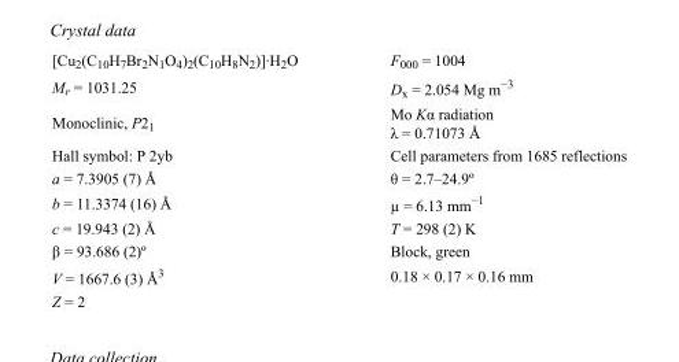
<table><tbody><tr><td>[Cu<sub>2</sub>(C<sub>10</sub>H<sub>7</sub>Br<sub>2</sub>N<sub>1</sub>O<sub>4</sub>)<sub>2</sub>(C<sub>10</sub>H<sub>8</sub>N<sub>2</sub>)]·H<sub>2</sub>O</td><td>F<sub>000</sub> = 1004</td></tr><tr><td>M<sub>r</sub> = 1031.25</td><td>D<sub>x</sub> = 2.054 Mg m<sup>−3</sup></td></tr><tr><td>Monoclinic, P2<sub>1</sub></td><td>Mo Kα radiation λ = 0.71073 Å</td></tr><tr><td>Hall symbol: P 2yb</td><td>Cell parameters from 1685 reflections</td></tr><tr><td>a = 7.3905 (7) Å</td><td>θ = 2.7–24.9º</td></tr><tr><td>b = 11.3374 (16) Å</td><td>µ = 6.13 mm<sup>−1</sup></td></tr><tr><td>c = 19.943 (2) Å</td><td>T = 298 (2) K</td></tr><tr><td>β = 93.686 (2)º</td><td>Block, green</td></tr><tr><td>V = 1667.6 (3) Å<sup>3</sup></td><td>0.18 × 0.17 × 0.16 mm</td></tr><tr><td>Z = 2</td><td></td></tr></tbody></table>